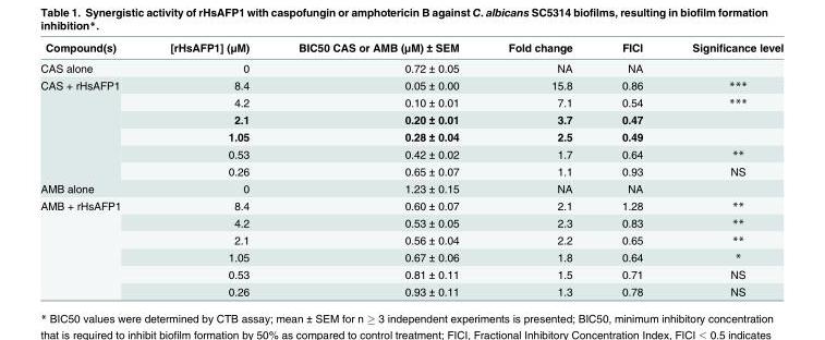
<table><thead><tr><td>Compound(s)</td><td>[rHsAFP1] (μM)</td><td>BIC50 CAS or AMB (μM) ± SEM</td><td>Fold change</td><td>FICI</td><td>Significance level</td></tr></thead><tbody><tr><td>CAS alone</td><td>0</td><td>0.72 ± 0.05</td><td>NA</td><td>NA</td><td></td></tr><tr><td rowspan="6">CAS + rHsAFP1</td><td>8.4</td><td>0.05 ± 0.00</td><td>15.8</td><td>0.86</td><td>***</td></tr><tr><td>4.2</td><td>0.10 ± 0.01</td><td>7.1</td><td>0.54</td><td>***</td></tr><tr><td>2.1</td><td>0.20 ± 0.01</td><td>3.7</td><td>0.47</td><td></td></tr><tr><td>1.05</td><td>0.28 ± 0.04</td><td>2.5</td><td>0.49</td><td></td></tr><tr><td>0.53</td><td>0.42 ± 0.02</td><td>1.7</td><td>0.64</td><td>**</td></tr><tr><td>0.26</td><td>0.65 ± 0.07</td><td>1.1</td><td>0.93</td><td>NS</td></tr><tr><td>AMB alone</td><td>0</td><td>1.23 ± 0.15</td><td>NA</td><td>NA</td><td></td></tr><tr><td rowspan="6">AMB + rHsAFP1</td><td>8.4</td><td>0.60 ± 0.07</td><td>2.1</td><td>1.28</td><td>**</td></tr><tr><td>4.2</td><td>0.53 ± 0.05</td><td>2.3</td><td>0.83</td><td>**</td></tr><tr><td>2.1</td><td>0.56 ± 0.04</td><td>2.2</td><td>0.65</td><td>**</td></tr><tr><td>1.05</td><td>0.67 ± 0.06</td><td>1.8</td><td>0.64</td><td>*</td></tr><tr><td>0.53</td><td>0.81 ± 0.11</td><td>1.5</td><td>0.71</td><td>NS</td></tr><tr><td>0.26</td><td>0.93 ± 0.11</td><td>1.3</td><td>0.78</td><td>NS</td></tr></tbody></table>